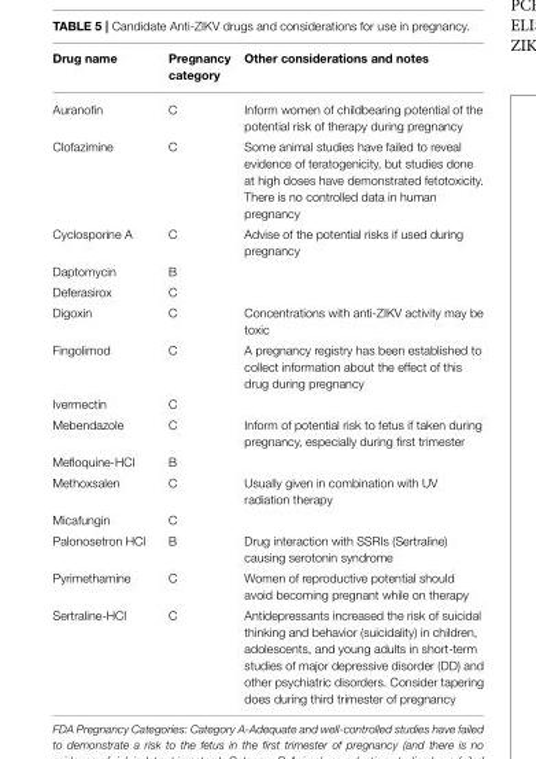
<table><thead><tr><td>Drug name</td><td>Pregnancy category</td><td>Other considerations and notes</td></tr></thead><tbody><tr><td>Auranofin</td><td>C</td><td>Inform women of childbearing potential of the potential risk of therapy during pregnancy</td></tr><tr><td>Clofazimine</td><td>C</td><td>Some animal studies have failed to reveal evidence of teratogenicity, but studies done at high doses have demonstrated fetotoxicity. There is no controlled data in human pregnancy</td></tr><tr><td>Cyclosporine A</td><td>C</td><td>Advise of the potential risks if used during pregnancy</td></tr><tr><td>Daptomycin</td><td>B</td><td></td></tr><tr><td>Deferasirox</td><td>C</td><td></td></tr><tr><td>Digoxin</td><td>C</td><td>Concentrations with anti-ZIKV activity may be toxic</td></tr><tr><td>Fingolimod</td><td>C</td><td>A pregnancy registry has been established to collect information about the effect of this drug during pregnancy</td></tr><tr><td>Ivermectin</td><td>C</td><td></td></tr><tr><td>Mebendazole</td><td>C</td><td>Inform of potential risk to fetus if taken during pregnancy, especially during first trimester</td></tr><tr><td>Mefloquine-HCI</td><td>B</td><td></td></tr><tr><td>Methoxsalen</td><td>C</td><td>Usually given in combination with UV radiation therapy</td></tr><tr><td>Micafungin</td><td>C</td><td></td></tr><tr><td>Palonosetron HCI</td><td>B</td><td>Drug interaction with SSRIs (Sertraline) causing serotonin syndrome</td></tr><tr><td>Pyrimethamine</td><td>C</td><td>Women of reproductive potential should avoid becoming pregnant while on therapy</td></tr><tr><td>Sertraline-HCI</td><td>C</td><td>Antidepressants increased the risk of suicidal thinking and behavior (suicidality) in children, adolescents, and young adults in short-term studies of major depressive disorder (DD) and other psychiatric disorders. Consider tapering does during third trimester of pregnancy</td></tr></tbody></table>